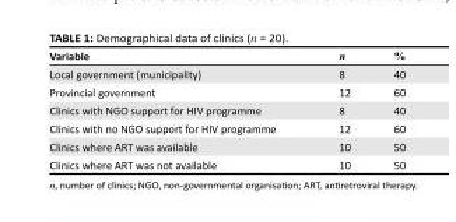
<table><thead><tr><td>Variable</td><td>n</td><td>%</td></tr></thead><tbody><tr><td>Local government (municipality)</td><td>8</td><td>40</td></tr><tr><td>Provincial government</td><td>12</td><td>60</td></tr><tr><td>Clinics with NGO support for HIV programme</td><td>8</td><td>40</td></tr><tr><td>Clinics with no NGO support for HIV programme</td><td>12</td><td>60</td></tr><tr><td>Clinics where ART was available</td><td>10</td><td>50</td></tr><tr><td>Clinics where ART was not available</td><td>10</td><td>50</td></tr></tbody></table>